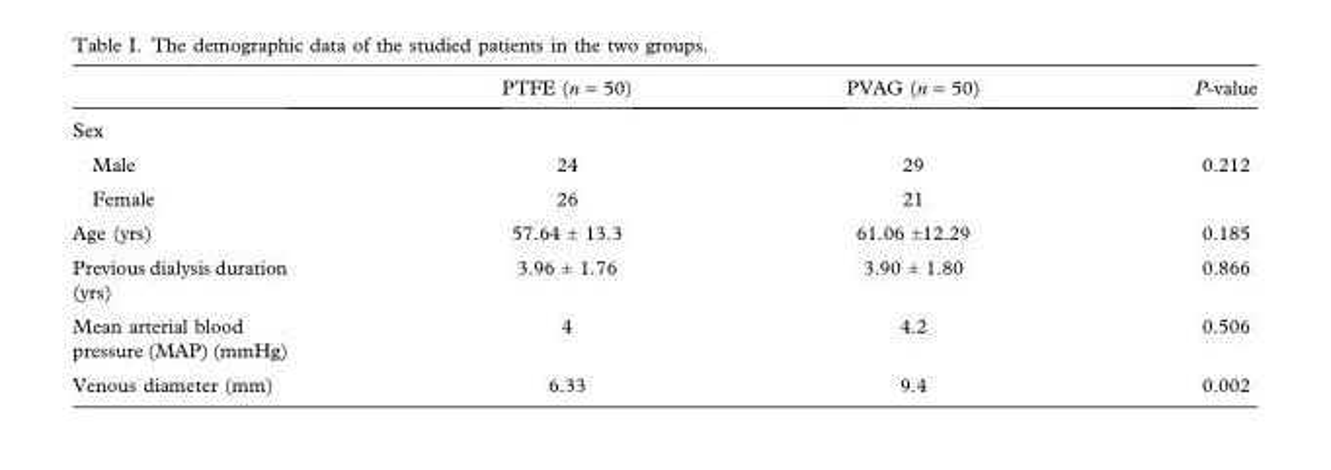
<table><thead><tr><td></td><td>PTFE (n = 50)</td><td>PVAG (n = 50)</td><td>P-value</td></tr></thead><tbody><tr><td colspan="4">Sex</td></tr><tr><td>Male</td><td>24</td><td>29</td><td>0.212</td></tr><tr><td>Female</td><td>26</td><td>21</td><td></td></tr><tr><td>Age (yrs)</td><td>57.64 ± 13.3</td><td>61.06 ±12.29</td><td>0.185</td></tr><tr><td>Previous dialysis duration (yrs)</td><td>3.96 ± 1.76</td><td>3.90 ± 1.80</td><td>0.866</td></tr><tr><td>Mean arterial blood pressure (MAP) (mmHg)</td><td>4</td><td>4.2</td><td>0.506</td></tr><tr><td>Venous diameter (mm)</td><td>6.33</td><td>9.4</td><td>0.002</td></tr></tbody></table>